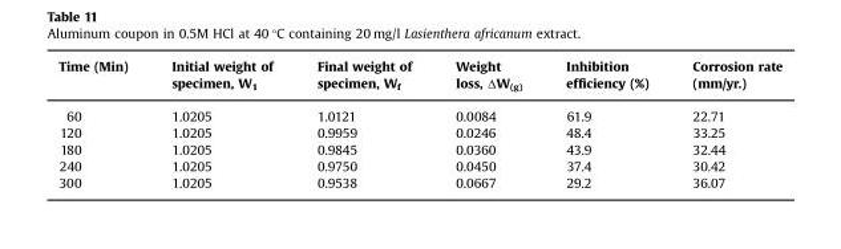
<table><thead><tr><td>Time (Min)</td><td>Initial weight of specimen, W<sub>1</sub></td><td>Final weight of specimen, W<sub>f</sub></td><td>Weight loss, ΔW(g)</td><td>Inhibition efficiency (%)</td><td>Corrosion rate (mm/yr.)</td></tr></thead><tbody><tr><td>60</td><td>1.0205</td><td>1.0121</td><td>0.0084</td><td>61.9</td><td>22.71</td></tr><tr><td>120</td><td>1.0205</td><td>0.9959</td><td>0.0246</td><td>48.4</td><td>33.25</td></tr><tr><td>180</td><td>1.0205</td><td>0.9845</td><td>0.0360</td><td>43.9</td><td>32.44</td></tr><tr><td>240</td><td>1.0205</td><td>0.9750</td><td>0.0450</td><td>37.4</td><td>30.42</td></tr><tr><td>300</td><td>1.0205</td><td>0.9538</td><td>0.0667</td><td>29.2</td><td>36.07</td></tr></tbody></table>